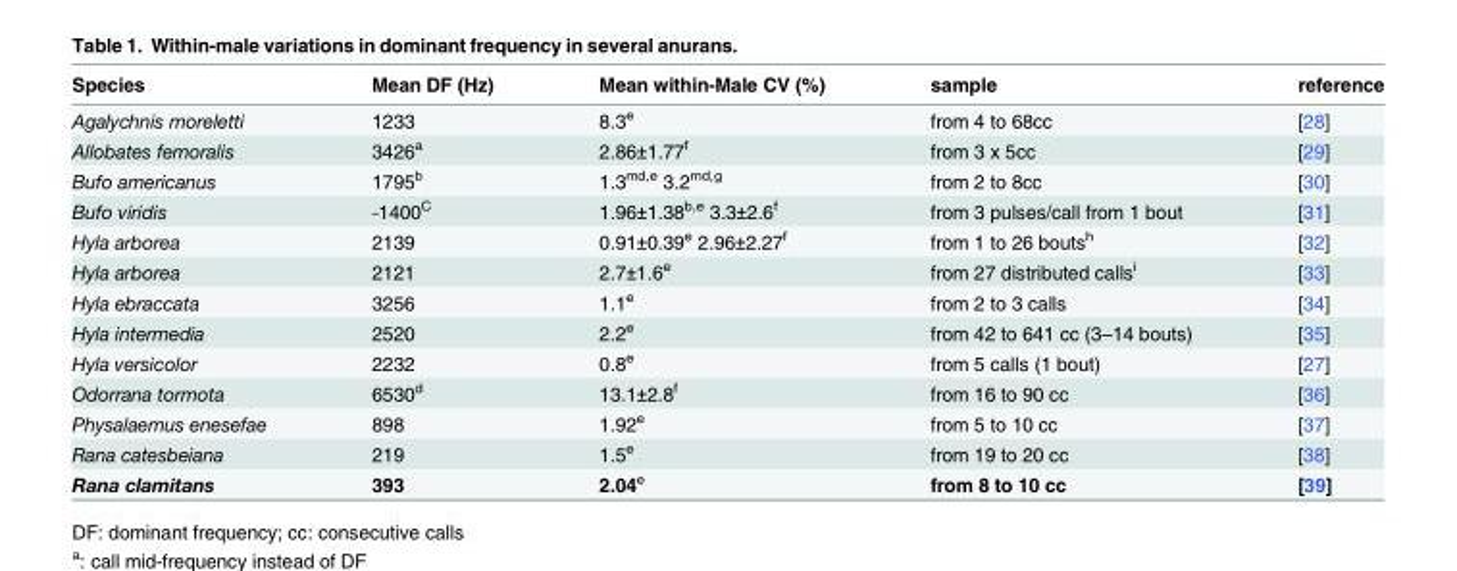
<table><thead><tr><td>Species</td><td>Mean DF (Hz)</td><td>Mean within-Male CV (%)</td><td>sample</td><td>reference</td></tr></thead><tbody><tr><td>Agalychnis moreletti</td><td>1233</td><td>8.3<sup>e</sup></td><td>from 4 to 68cc</td><td>[28]</td></tr><tr><td>Allobates femoralis</td><td>3426<sup>a</sup></td><td>2.86±1.77<sup>f</sup></td><td>from 3 x 5cc</td><td>[29]</td></tr><tr><td>Bufo americanus</td><td>1795<sup>b</sup></td><td>1.3<sup>md,e</sup> 3.2<sup>md,g</sup></td><td>from 2 to 8cc</td><td>[30]</td></tr><tr><td>Bufo viridis</td><td>˷1400<sup>C</sup></td><td>1.96±1.38<sup>b,e</sup> 3.3±2.6<sup>f</sup></td><td>from 3 pulses/call from 1 bout</td><td>[31]</td></tr><tr><td>Hyla arborea</td><td>2139</td><td>0.91±0.39<sup>e</sup> 2.96±2.27<sup>f</sup></td><td>from 1 to 26 bouts<sup>h</sup></td><td>[32]</td></tr><tr><td>Hyla arborea</td><td>2121</td><td>2.7±1.6<sup>e</sup></td><td>from 27 distributed calls<sup>i</sup></td><td>[33]</td></tr><tr><td>Hyla ebraccata</td><td>3256</td><td>1.1<sup>e</sup></td><td>from 2 to 3 calls</td><td>[34]</td></tr><tr><td>Hyla intermedia</td><td>2520</td><td>2.2<sup>e</sup></td><td>from 42 to 641 cc (3–14 bouts)</td><td>[35]</td></tr><tr><td>Hyla versicolor</td><td>2232</td><td>0.8<sup>e</sup></td><td>from 5 calls (1 bout)</td><td>[27]</td></tr><tr><td>Odorrana tormota</td><td>6530<sup>d</sup></td><td>13.1±2.8<sup>f</sup></td><td>from 16 to 90 cc</td><td>[36]</td></tr><tr><td>Physalaemus enesefae</td><td>898</td><td>1.92<sup>e</sup></td><td>from 5 to 10 cc</td><td>[37]</td></tr><tr><td>Rana catesbeiana</td><td>219</td><td>1.5<sup>e</sup></td><td>from 19 to 20 cc</td><td>[38]</td></tr><tr><td>Rana clamitans</td><td>393</td><td>2.04<sup>e</sup></td><td>from 8 to 10 cc</td><td>[39]</td></tr></tbody></table>